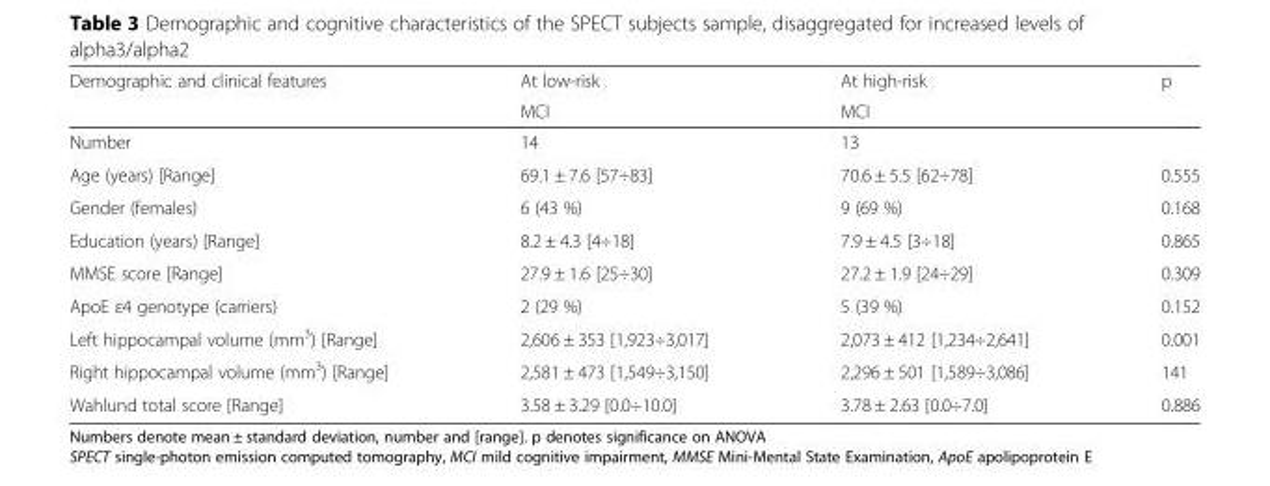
<table><thead><tr><td rowspan="2">Demographic and clinical features</td><td rowspan="2">At low-risk MCI</td><td rowspan="2">At high-risk MCI</td><td rowspan="2">p</td></tr><tr></tr></thead><tbody><tr><td>Number</td><td>14</td><td>13</td><td></td></tr><tr><td>Age (years) [Range]</td><td>69.1 ± 7.6 [57÷83]</td><td>70.6 ± 5.5 [62÷78]</td><td>0.555</td></tr><tr><td>Gender (females)</td><td>6 (43 %)</td><td>9 (69 %)</td><td>0.168</td></tr><tr><td>Education (years) [Range]</td><td>8.2 ± 4.3 [4÷18]</td><td>7.9 ± 4.5 [3÷18]</td><td>0.865</td></tr><tr><td>MMSE score [Range]</td><td>27.9 ± 1.6 [25÷30]</td><td>27.2 ± 1.9 [24÷29]</td><td>0.309</td></tr><tr><td>ApoE ε4 genotype (carriers)</td><td>2 (29 %)</td><td>5 (39 %)</td><td>0.152</td></tr><tr><td>Left hippocampal volume (mm<sup>3</sup>) [Range]</td><td>2,606 ± 353 [1,923÷3,017]</td><td>2,073 ± 412 [1,234÷2,641]</td><td>0.001</td></tr><tr><td>Right hippocampal volume (mm<sup>3</sup>) [Range]</td><td>2,581 ± 473 [1,549÷3,150]</td><td>2,296 ± 501 [1,589÷3,086]</td><td>141</td></tr><tr><td>Wahlund total score [Range]</td><td>3.58 ± 3.29 [0.0÷10.0]</td><td>3.78 ± 2.63 [0.0÷7.0]</td><td>0.886</td></tr></tbody></table>